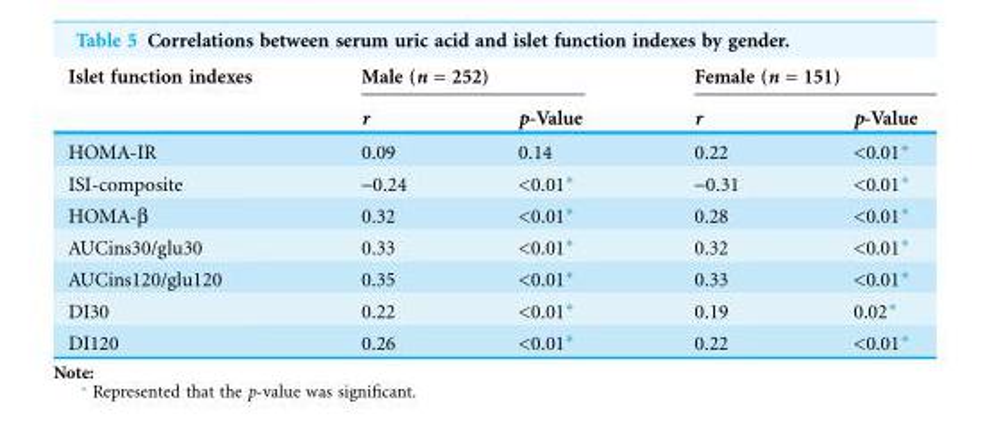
<table><thead><tr><td rowspan="2">Islet function indexes</td><td colspan="2">Male (n = 252)</td><td colspan="2">Female (n = 151)</td></tr><tr><td>r</td><td>p-Value</td><td>r</td><td>p-Value</td></tr></thead><tbody><tr><td>HOMA-IR</td><td>0.09</td><td>0.14</td><td>0.22</td><td>&lt;0.01*</td></tr><tr><td>ISI-composite</td><td>-0.24</td><td>&lt;0.01*</td><td>-0.31</td><td>&lt;0.01*</td></tr><tr><td>HOMA-β</td><td>0.32</td><td>&lt;0.01*</td><td>0.28</td><td>&lt;0.01*</td></tr><tr><td>AUCins30/glu30</td><td>0.33</td><td>&lt;0.01*</td><td>0.32</td><td>&lt;0.01*</td></tr><tr><td>AUCins120/glu120</td><td>0.35</td><td>&lt;0.01*</td><td>0.33</td><td>&lt;0.01*</td></tr><tr><td>DI30</td><td>0.22</td><td>&lt;0.01*</td><td>0.19</td><td>0.02*</td></tr><tr><td>DI120</td><td>0.26</td><td>&lt;0.01*</td><td>0.22</td><td>&lt;0.01*</td></tr></tbody></table>